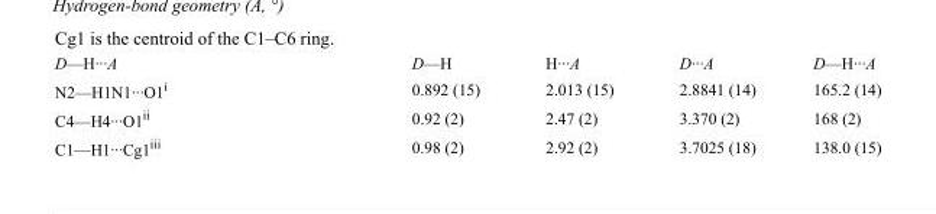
<table><tbody><tr><td>D—H···A</td><td>D—H</td><td>H···A</td><td>D···A</td><td>D—H···A</td></tr><tr><td>N2—H1N1···O1<sup>i</sup></td><td>0.892 (15)</td><td>2.013 (15)</td><td>2.8841 (14)</td><td>165.2 (14)</td></tr><tr><td>C4—H4···O1<sup>ii</sup></td><td>0.92 (2)</td><td>2.47 (2)</td><td>3.370 (2)</td><td>168 (2)</td></tr><tr><td>C1—H1···Cg1<sup>iii</sup></td><td>0.98 (2)</td><td>2.92 (2)</td><td>3.7025 (18)</td><td>138.0 (15)</td></tr></tbody></table>